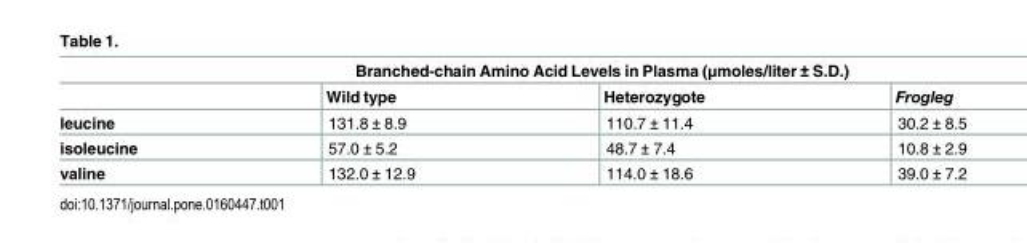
<table><thead><tr><td colspan="4">Branched-chain Amino Acid Levels in Plasma (μmoles/liter ± S.D.)</td></tr><tr><td></td><td>Wild type</td><td>Heterozygote</td><td>Frogleg</td></tr></thead><tbody><tr><td>leucine</td><td>131.8 ± 8.9</td><td>110.7 ± 11.4</td><td>30.2 ± 8.5</td></tr><tr><td>isoleucine</td><td>57.0 ± 5.2</td><td>48.7 ± 7.4</td><td>10.8 ± 2.9</td></tr><tr><td>valine</td><td>132.0 ± 12.9</td><td>114.0 ± 18.6</td><td>39.0 ± 7.2</td></tr></tbody></table>